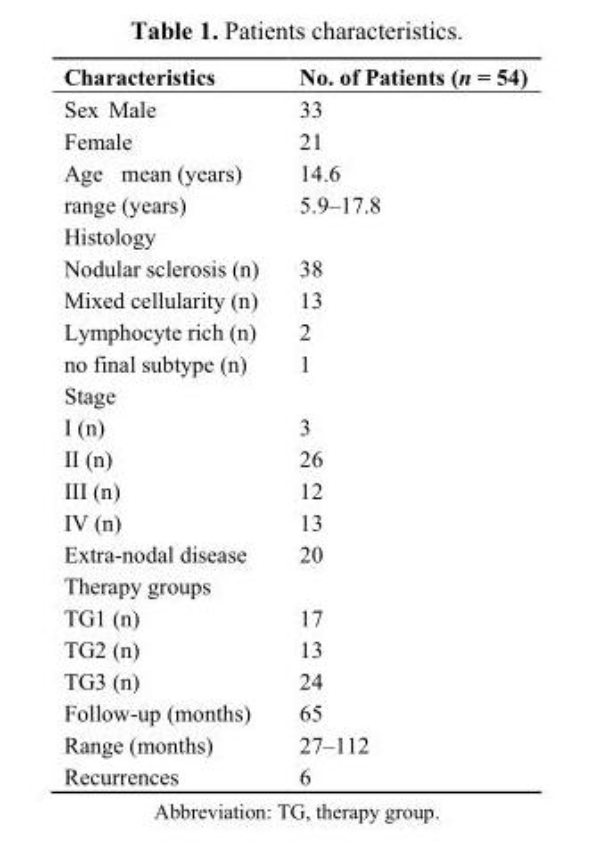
<table><thead><tr><td>Characteristics</td><td>No. of Patients (n = 54)</td></tr></thead><tbody><tr><td>Sex Male</td><td>33</td></tr><tr><td>Female</td><td>21</td></tr><tr><td>Age mean (years)</td><td>14.6</td></tr><tr><td>range (years)</td><td>5.9–17.8</td></tr><tr><td colspan="2">Histology</td></tr><tr><td>Nodular sclerosis (n)</td><td>38</td></tr><tr><td>Mixed cellularity (n)</td><td>13</td></tr><tr><td>Lymphocyte rich (n)</td><td>2</td></tr><tr><td>no final subtype (n)</td><td>1</td></tr><tr><td colspan="2">Stage</td></tr><tr><td>I (n)</td><td>3</td></tr><tr><td>II (n)</td><td>26</td></tr><tr><td>III (n)</td><td>12</td></tr><tr><td>IV (n)</td><td>13</td></tr><tr><td>Extra-nodal disease</td><td>20</td></tr><tr><td colspan="2">Therapy groups</td></tr><tr><td>TG1 (n)</td><td>17</td></tr><tr><td>TG2 (n)</td><td>13</td></tr><tr><td>TG3 (n)</td><td>24</td></tr><tr><td>Follow-up (months)</td><td>65</td></tr><tr><td>Range (months)</td><td>27–112</td></tr><tr><td>Recurrences</td><td>6</td></tr></tbody></table>